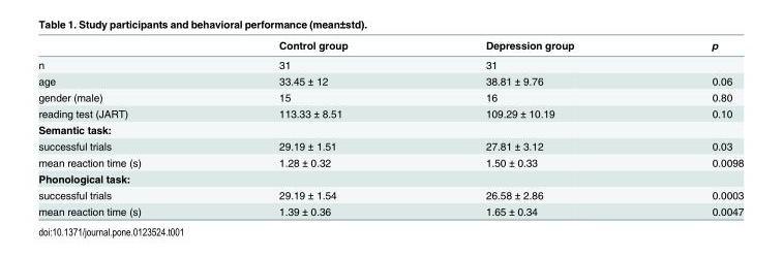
<table><thead><tr><td></td><td>Control group</td><td>Depression group</td><td>p</td></tr></thead><tbody><tr><td>n</td><td>31</td><td>31</td><td></td></tr><tr><td>age</td><td>33.45 ± 12</td><td>38.81 ± 9.76</td><td>0.06</td></tr><tr><td>gender (male)</td><td>15</td><td>16</td><td>0.80</td></tr><tr><td>reading test (JART)</td><td>113.33 ± 8.51</td><td>109.29 ± 10.19</td><td>0.10</td></tr><tr><td colspan="4">Semantic task:</td></tr><tr><td>successful trials</td><td>29.19 ± 1.51</td><td>27.81 ± 3.12</td><td>0.03</td></tr><tr><td>mean reaction time (s)</td><td>1.28 ± 0.32</td><td>1.50 ± 0.33</td><td>0.0098</td></tr><tr><td colspan="4">Phonological task:</td></tr><tr><td>successful trials</td><td>29.19 ± 1.54</td><td>26.58 ± 2.86</td><td>0.0003</td></tr><tr><td>mean reaction time (s)</td><td>1.39 ± 0.36</td><td>1.65 ± 0.34</td><td>0.0047</td></tr></tbody></table>